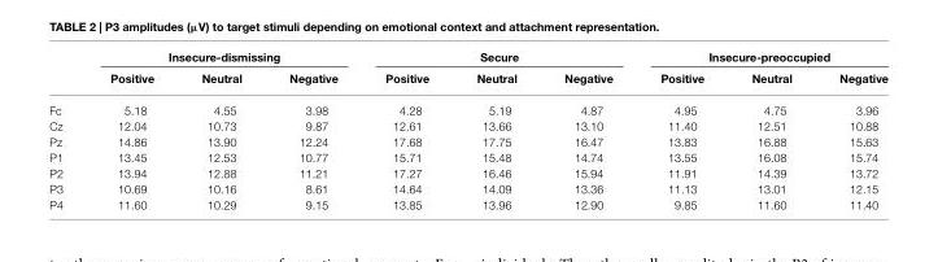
<table><thead><tr><td rowspan="2"></td><td colspan="3">Insecure-dismissing</td><td colspan="3">Secure</td><td colspan="3">Insecure-preoccupied</td></tr><tr><td>Positive</td><td>Neutral</td><td>Negative</td><td>Positive</td><td>Neutral</td><td>Negative</td><td>Positive</td><td>Neutral</td><td>Negative</td></tr></thead><tbody><tr><td>Fc</td><td>5.18</td><td>4.55</td><td>3.98</td><td>4.28</td><td>5.19</td><td>4.87</td><td>4.95</td><td>4.75</td><td>3.96</td></tr><tr><td>Cz</td><td>12.04</td><td>10.73</td><td>9.87</td><td>12.61</td><td>13.66</td><td>13.10</td><td>11.40</td><td>12.51</td><td>10.88</td></tr><tr><td>Pz</td><td>14.86</td><td>13.90</td><td>12.24</td><td>17.68</td><td>17.75</td><td>16.47</td><td>13.83</td><td>16.88</td><td>15.63</td></tr><tr><td>P1</td><td>13.45</td><td>12.53</td><td>10.77</td><td>15.71</td><td>15.48</td><td>14.74</td><td>13.55</td><td>16.08</td><td>15.74</td></tr><tr><td>P2</td><td>13.94</td><td>12.88</td><td>11.21</td><td>17.27</td><td>16.46</td><td>15.94</td><td>11.91</td><td>14.39</td><td>13.72</td></tr><tr><td>P3</td><td>10.69</td><td>10.16</td><td>8.61</td><td>14.64</td><td>14.09</td><td>13.36</td><td>11.13</td><td>13.01</td><td>12.15</td></tr><tr><td>P4</td><td>11.60</td><td>10.29</td><td>9.15</td><td>13.85</td><td>13.96</td><td>12.90</td><td>9.85</td><td>11.60</td><td>11.40</td></tr></tbody></table>